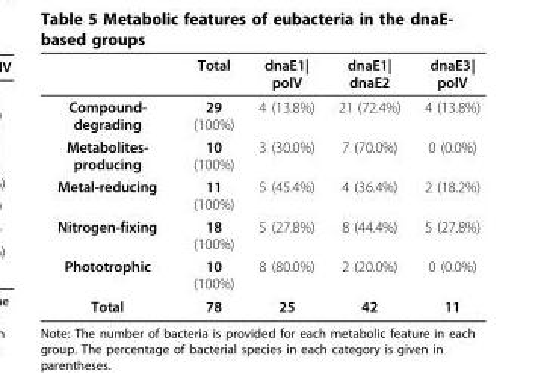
<table><thead><tr><td></td><td>Total</td><td>dnaE1| polV</td><td>dnaE1| dnaE2</td><td>dnaE3| polV</td></tr></thead><tbody><tr><td>Compound- degrading</td><td>29 (100%)</td><td>4 (13.8%)</td><td>21 (72.4%)</td><td>4 (13.8%)</td></tr><tr><td>Metabolites- producing</td><td>10 (100%)</td><td>3 (30.0%)</td><td>7 (70.0%)</td><td>0 (0.0%)</td></tr><tr><td>Metal-reducing</td><td>11 (100%)</td><td>5 (45.4%)</td><td>4 (36.4%)</td><td>2 (18.2%)</td></tr><tr><td>Nitrogen-fixing</td><td>18 (100%)</td><td>5 (27.8%)</td><td>8 (44.4%)</td><td>5 (27.8%)</td></tr><tr><td>Phototrophic</td><td>10 (100%)</td><td>8 (80.0%)</td><td>2 (20.0%)</td><td>0 (0.0%)</td></tr><tr><td>Total</td><td>78</td><td>25</td><td>42</td><td>11</td></tr></tbody></table>